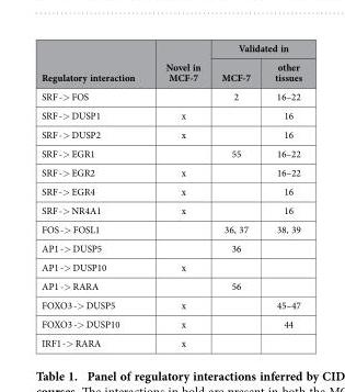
<table><thead><tr><td rowspan="2">Regulatory interaction</td><td rowspan="2">Novel in MCF-7</td><td colspan="2">Validated in</td></tr><tr><td>MCF-7</td><td>other tissues</td></tr></thead><tbody><tr><td>SRF -&gt; FOS</td><td></td><td>2</td><td>16–22</td></tr><tr><td>SRF -&gt; DUSP1</td><td>x</td><td></td><td>16</td></tr><tr><td>SRF -&gt; DUSP2</td><td>x</td><td></td><td>16</td></tr><tr><td>SRF -&gt; EGR1</td><td></td><td>55</td><td>16–22</td></tr><tr><td>SRF -&gt; EGR2</td><td>x</td><td></td><td>16–22</td></tr><tr><td>SRF -&gt; EGR4</td><td>x</td><td></td><td>16</td></tr><tr><td>SRF -&gt; NR4A1</td><td>x</td><td></td><td>16</td></tr><tr><td>FOS -&gt; FOSL1</td><td></td><td>36, 37</td><td>38, 39</td></tr><tr><td>AP1 -&gt; DUSP5</td><td></td><td>36</td><td></td></tr><tr><td>AP1 -&gt; DUSP10</td><td>x</td><td></td><td></td></tr><tr><td>AP1 -&gt; RARA</td><td></td><td>56</td><td></td></tr><tr><td>FOXO3 -&gt; DUSP5</td><td>x</td><td></td><td>45–47</td></tr><tr><td>FOXO3 -&gt; DUSP10</td><td>x</td><td></td><td>44</td></tr><tr><td>IRF1 -&gt; RARA</td><td>x</td><td></td><td></td></tr></tbody></table>